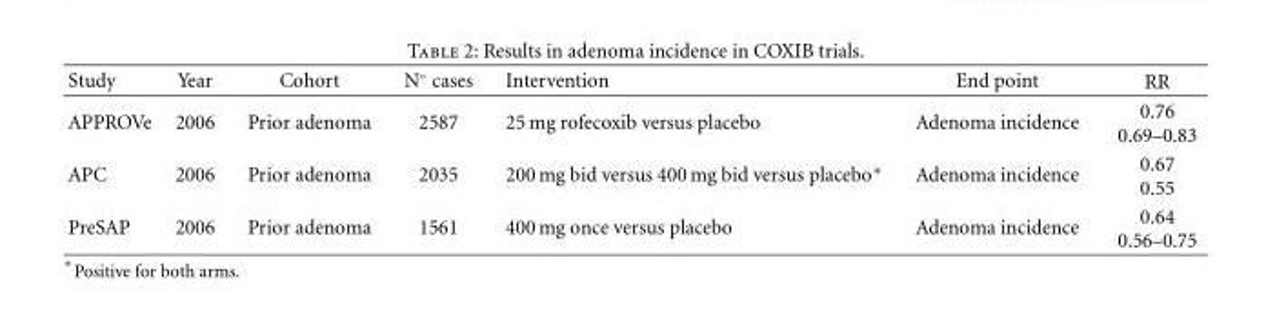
<table><thead><tr><td>Study</td><td>Year</td><td>Cohort</td><td>N◦ cases</td><td>Intervention</td><td>End point</td><td>RR</td></tr></thead><tbody><tr><td>APPROVe</td><td>2006</td><td>Prior adenoma</td><td>2587</td><td>25 mg rofecoxib versus placebo</td><td>Adenoma incidence</td><td>0.76 0.69–0.83</td></tr><tr><td>APC</td><td>2006</td><td>Prior adenoma</td><td>2035</td><td>200 mg bid versus 400 mg bid versus placebo∗</td><td>Adenoma incidence</td><td>0.67 0.55</td></tr><tr><td>PreSAP</td><td>2006</td><td>Prior adenoma</td><td>1561</td><td>400 mg once versus placebo</td><td>Adenoma incidence</td><td>0.64 0.56–0.75</td></tr></tbody></table>